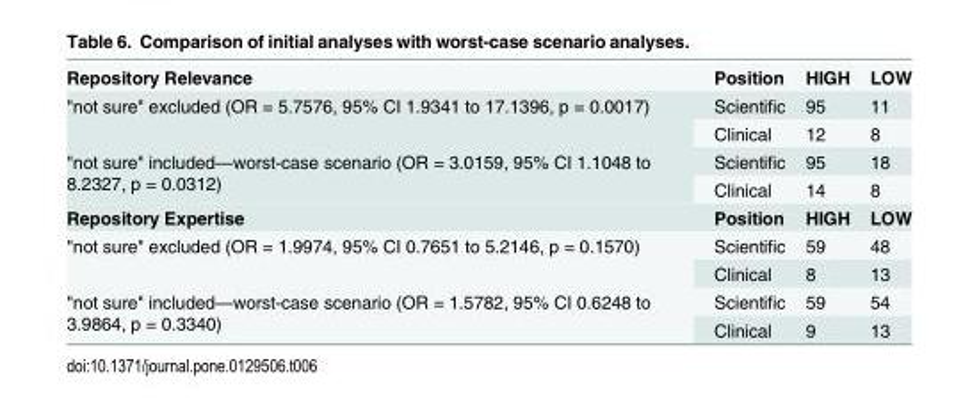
<table><tbody><tr><td>Repository Relevance</td><td>Position</td><td>HIGH</td><td>LOW</td></tr><tr><td rowspan="2">&quot;not sure&quot; excluded (OR = 5.7576, 95% CI 1.9341 to 17.1396, p = 0.0017)</td><td>Scientific</td><td>95</td><td>11</td></tr><tr><td>Clinical</td><td>12</td><td>8</td></tr><tr><td rowspan="2">&quot;not sure&quot; included—worst-case scenario (OR = 3.0159, 95% CI 1.1048 to 8.2327, p = 0.0312)</td><td>Scientific</td><td>95</td><td>18</td></tr><tr><td>Clinical</td><td>14</td><td>8</td></tr><tr><td>Repository Expertise</td><td>Position</td><td>HIGH</td><td>LOW</td></tr><tr><td rowspan="2">&quot;not sure&quot; excluded (OR = 1.9974, 95% CI 0.7651 to 5.2146, p = 0.1570)</td><td>Scientific</td><td>59</td><td>48</td></tr><tr><td>Clinical</td><td>8</td><td>13</td></tr><tr><td rowspan="2">&quot;not sure&quot; included—worst-case scenario (OR = 1.5782, 95% CI 0.6248 to 3.9864, p = 0.3340)</td><td>Scientific</td><td>59</td><td>54</td></tr><tr><td>Clinical</td><td>9</td><td>13</td></tr></tbody></table>